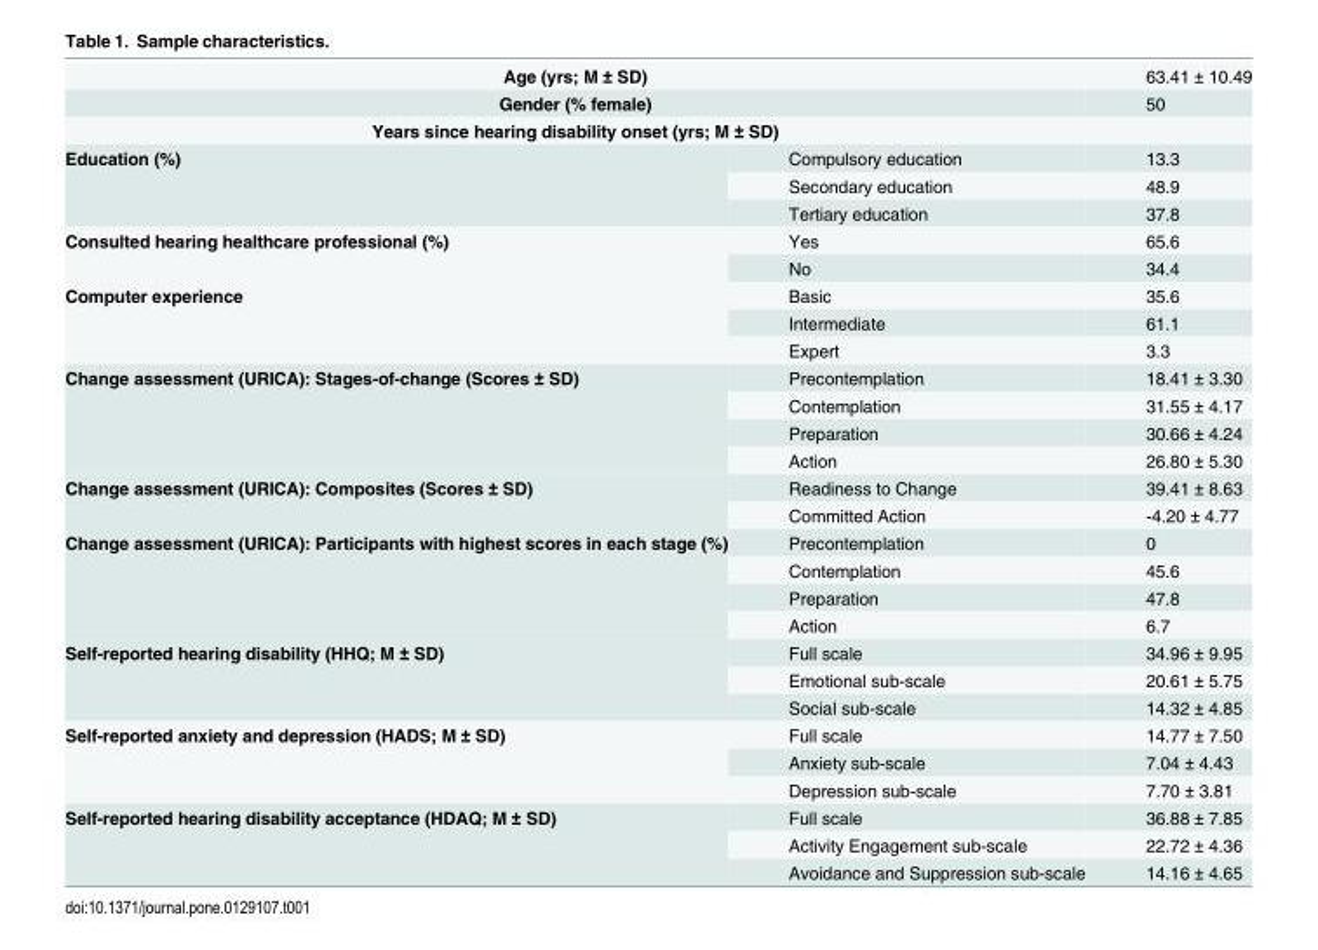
<table><tbody><tr><td colspan="2">Age (yrs; M ± SD)</td><td>63.41 ± 10.49</td></tr><tr><td colspan="2">Gender (% female)</td><td>50</td></tr><tr><td colspan="3">Years since hearing disability onset (yrs; M ± SD)</td></tr><tr><td rowspan="3">Education (%)</td><td>Compulsory education</td><td>13.3</td></tr><tr><td>Secondary education</td><td>48.9</td></tr><tr><td>Tertiary education</td><td>37.8</td></tr><tr><td rowspan="2">Consulted hearing healthcare professional (%)</td><td>Yes</td><td>65.6</td></tr><tr><td>No</td><td>34.4</td></tr><tr><td rowspan="3">Computer experience</td><td>Basic</td><td>35.6</td></tr><tr><td>Intermediate</td><td>61.1</td></tr><tr><td>Expert</td><td>3.3</td></tr><tr><td rowspan="4">Change assessment (URICA): Stages-of-change (Scores ± SD)</td><td>Precontemplation</td><td>18.41 ± 3.30</td></tr><tr><td>Contemplation</td><td>31.55 ± 4.17</td></tr><tr><td>Preparation</td><td>30.66 ± 4.24</td></tr><tr><td>Action</td><td>26.80 ± 5.30</td></tr><tr><td rowspan="2">Change assessment (URICA): Composites (Scores ± SD)</td><td>Readiness to Change</td><td>39.41 ± 8.63</td></tr><tr><td>Committed Action</td><td>-4.20 ± 4.77</td></tr><tr><td rowspan="4">Change assessment (URICA): Participants with highest scores in each stage (%)</td><td>Precontemplation</td><td>0</td></tr><tr><td>Contemplation</td><td>45.6</td></tr><tr><td>Preparation</td><td>47.8</td></tr><tr><td>Action</td><td>6.7</td></tr><tr><td rowspan="3">Self-reported hearing disability (HHQ; M ± SD)</td><td>Full scale</td><td>34.96 ± 9.95</td></tr><tr><td>Emotional sub-scale</td><td>20.61 ± 5.75</td></tr><tr><td>Social sub-scale</td><td>14.32 ± 4.85</td></tr><tr><td rowspan="3">Self-reported anxiety and depression (HADS; M ± SD)</td><td>Full scale</td><td>14.77 ± 7.50</td></tr><tr><td>Anxiety sub-scale</td><td>7.04 ± 4.43</td></tr><tr><td>Depression sub-scale</td><td>7.70 ± 3.81</td></tr><tr><td rowspan="3">Self-reported hearing disability acceptance (HDAQ; M ± SD)</td><td>Full scale</td><td>36.88 ± 7.85</td></tr><tr><td>Activity Engagement sub-scale</td><td>22.72 ± 4.36</td></tr><tr><td>Avoidance and Suppression sub-scale</td><td>14.16 ± 4.65</td></tr></tbody></table>